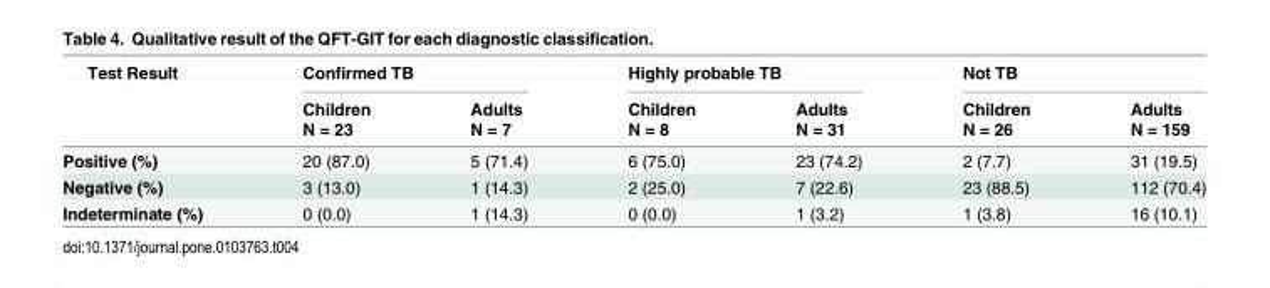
<table><thead><tr><td rowspan="3">Test Result</td><td colspan="2">Confirmed TB</td><td colspan="2">Highly probable TB</td><td colspan="2">Not TB</td></tr><tr><td rowspan="2">Children N = 23</td><td rowspan="2">Adults N = 7</td><td rowspan="2">Children N = 8</td><td rowspan="2">Adults N = 31</td><td rowspan="2">Children N = 26</td><td rowspan="2">Adults N = 159</td></tr><tr></tr></thead><tbody><tr><td>Positive (%)</td><td>20 (87.0)</td><td>5 (71.4)</td><td>6 (75.0)</td><td>23 (74.2)</td><td>2 (7.7)</td><td>31 (19.5)</td></tr><tr><td>Negative (%)</td><td>3 (13.0)</td><td>1 (14.3)</td><td>2 (25.0)</td><td>7 (22.6)</td><td>23 (88.5)</td><td>112 (70.4)</td></tr><tr><td>Indeterminate (%)</td><td>0 (0.0)</td><td>1 (14.3)</td><td>0 (0.0)</td><td>1 (3.2)</td><td>1 (3.8)</td><td>16 (10.1)</td></tr></tbody></table>